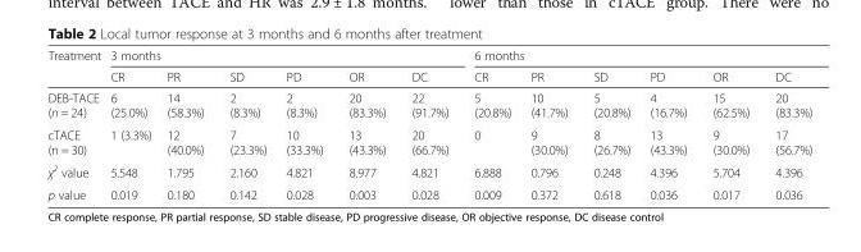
<table><thead><tr><td rowspan="2">Treatment</td><td colspan="6">3 months</td><td colspan="6">6 months</td></tr><tr><td>CR</td><td>PR</td><td>SD</td><td>PD</td><td>OR</td><td>DC</td><td>CR</td><td>PR</td><td>SD</td><td>PD</td><td>OR</td><td>DC</td></tr></thead><tbody><tr><td>DEB-TACE (n = 24)</td><td>6 (25.0%)</td><td>14 (58.3%)</td><td>2 (8.3%)</td><td>2 (8.3%)</td><td>20 (83.3%)</td><td>22 (91.7%)</td><td>5 (20.8%)</td><td>10 (41.7%)</td><td>5 (20.8%)</td><td>4 (16.7%)</td><td>15 (62.5%)</td><td>20 (83.3%)</td></tr><tr><td>cTACE (n = 30)</td><td>1 (3.3%)</td><td>12 (40.0%)</td><td>7 (23.3%)</td><td>10 (33.3%)</td><td>13 (43.3%)</td><td>20 (66.7%)</td><td>0</td><td>9 (30.0%)</td><td>8 (26.7%)</td><td>13 (43.3%)</td><td>9 (30.0%)</td><td>17 (56.7%)</td></tr><tr><td>χ<sup>2</sup> value</td><td>5.548</td><td>1.795</td><td>2.160</td><td>4.821</td><td>8.977</td><td>4.821</td><td>6.888</td><td>0.796</td><td>0.248</td><td>4.396</td><td>5.704</td><td>4.396</td></tr><tr><td>p value</td><td>0.019</td><td>0.180</td><td>0.142</td><td>0.028</td><td>0.003</td><td>0.028</td><td>0.009</td><td>0.372</td><td>0.618</td><td>0.036</td><td>0.017</td><td>0.036</td></tr></tbody></table>